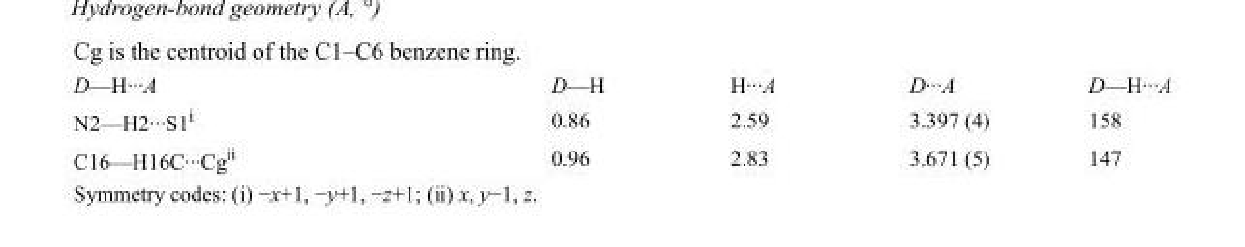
<table><tbody><tr><td>D—H···A</td><td>D—H</td><td>H···A</td><td>D···A</td><td>D—H···A</td></tr><tr><td>N2—H2···S1<sup>i</sup></td><td>0.86</td><td>2.59</td><td>3.397 (4)</td><td>158</td></tr><tr><td>C16—H16C···Cg<sup>ii</sup></td><td>0.96</td><td>2.83</td><td>3.671 (5)</td><td>147</td></tr></tbody></table>